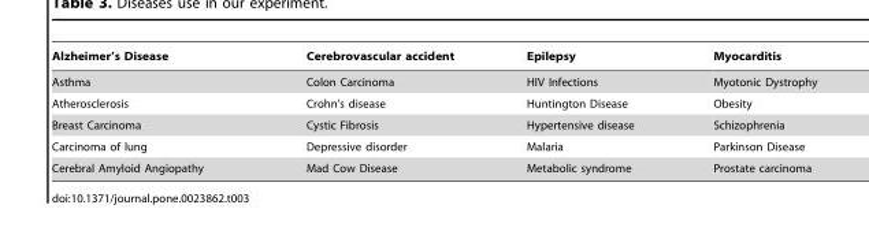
<table><thead><tr><td>Alzheimer’s Disease</td><td>Cerebrovascular accident</td><td>Epilepsy</td><td>Myocarditis</td></tr></thead><tbody><tr><td>Asthma</td><td>Colon Carcinoma</td><td>HIV Infections</td><td>Myotonic Dystrophy</td></tr><tr><td>Atherosclerosis</td><td>Crohn’s disease</td><td>Huntington Disease</td><td>Obesity</td></tr><tr><td>Breast Carcinoma</td><td>Cystic Fibrosis</td><td>Hypertensive disease</td><td>Schizophrenia</td></tr><tr><td>Carcinoma of lung</td><td>Depressive disorder</td><td>Malaria</td><td>Parkinson Disease</td></tr><tr><td>Cerebral Amyloid Angiopathy</td><td>Mad Cow Disease</td><td>Metabolic syndrome</td><td>Prostate carcinoma</td></tr></tbody></table>